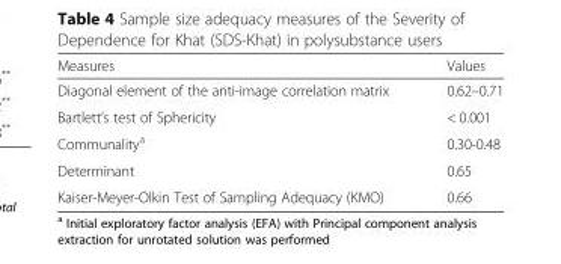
<table><thead><tr><td>Measures</td><td>Values</td></tr></thead><tbody><tr><td>Diagonal element of the anti-image correlation matrix</td><td>0.62–0.71</td></tr><tr><td>Bartlett’s test of Sphericity</td><td>&lt; 0.001</td></tr><tr><td>Communality<sup>a</sup></td><td>0.30-0.48</td></tr><tr><td>Determinant</td><td>0.65</td></tr><tr><td>Kaiser-Meyer-Olkin Test of Sampling Adequacy (KMO)</td><td>0.66</td></tr></tbody></table>